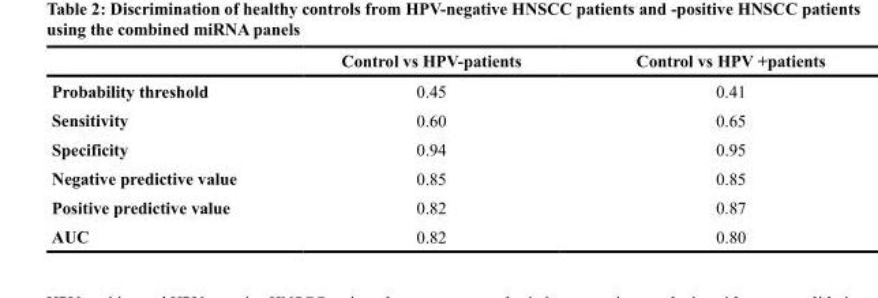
<table><thead><tr><td></td><td>Control vs HPV-patients</td><td>Control vs HPV +patients</td></tr></thead><tbody><tr><td>Probability threshold</td><td>0.45</td><td>0.41</td></tr><tr><td>Sensitivity</td><td>0.60</td><td>0.65</td></tr><tr><td>Specificity</td><td>0.94</td><td>0.95</td></tr><tr><td>Negative predictive value</td><td>0.85</td><td>0.85</td></tr><tr><td>Positive predictive value</td><td>0.82</td><td>0.87</td></tr><tr><td>AUC</td><td>0.82</td><td>0.80</td></tr></tbody></table>